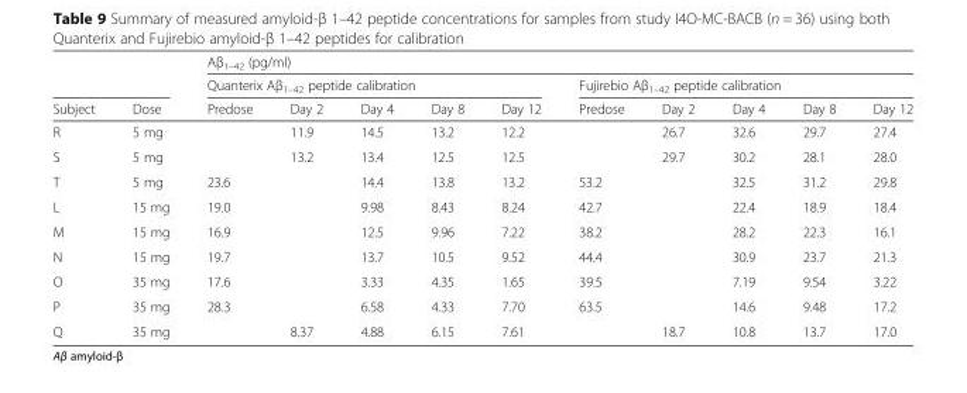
<table><thead><tr><td rowspan="3">Subject</td><td rowspan="3">Dose</td><td colspan="10">Aβ<sub>1–42</sub> (pg/ml)</td></tr><tr><td colspan="5">Quanterix Aβ<sub>1–42</sub> peptide calibration</td><td colspan="5">Fujirebio Aβ<sub>1–42</sub> peptide calibration</td></tr><tr><td>Predose</td><td>Day 2</td><td>Day 4</td><td>Day 8</td><td>Day 12</td><td>Predose</td><td>Day 2</td><td>Day 4</td><td>Day 8</td><td>Day 12</td></tr></thead><tbody><tr><td>R</td><td>5 mg</td><td></td><td>11.9</td><td>14.5</td><td>13.2</td><td>12.2</td><td></td><td>26.7</td><td>32.6</td><td>29.7</td><td>27.4</td></tr><tr><td>S</td><td>5 mg</td><td></td><td>13.2</td><td>13.4</td><td>12.5</td><td>12.5</td><td></td><td>29.7</td><td>30.2</td><td>28.1</td><td>28.0</td></tr><tr><td>T</td><td>5 mg</td><td>23.6</td><td></td><td>14.4</td><td>13.8</td><td>13.2</td><td>53.2</td><td></td><td>32.5</td><td>31.2</td><td>29.8</td></tr><tr><td>L</td><td>15 mg</td><td>19.0</td><td></td><td>9.98</td><td>8.43</td><td>8.24</td><td>42.7</td><td></td><td>22.4</td><td>18.9</td><td>18.4</td></tr><tr><td>M</td><td>15 mg</td><td>16.9</td><td></td><td>12.5</td><td>9.96</td><td>7.22</td><td>38.2</td><td></td><td>28.2</td><td>22.3</td><td>16.1</td></tr><tr><td>N</td><td>15 mg</td><td>19.7</td><td></td><td>13.7</td><td>10.5</td><td>9.52</td><td>44.4</td><td></td><td>30.9</td><td>23.7</td><td>21.3</td></tr><tr><td>O</td><td>35 mg</td><td>17.6</td><td></td><td>3.33</td><td>4.35</td><td>1.65</td><td>39.5</td><td></td><td>7.19</td><td>9.54</td><td>3.22</td></tr><tr><td>P</td><td>35 mg</td><td>28.3</td><td></td><td>6.58</td><td>4.33</td><td>7.70</td><td>63.5</td><td></td><td>14.6</td><td>9.48</td><td>17.2</td></tr><tr><td>Q</td><td>35 mg</td><td></td><td>8.37</td><td>4.88</td><td>6.15</td><td>7.61</td><td></td><td>18.7</td><td>10.8</td><td>13.7</td><td>17.0</td></tr></tbody></table>